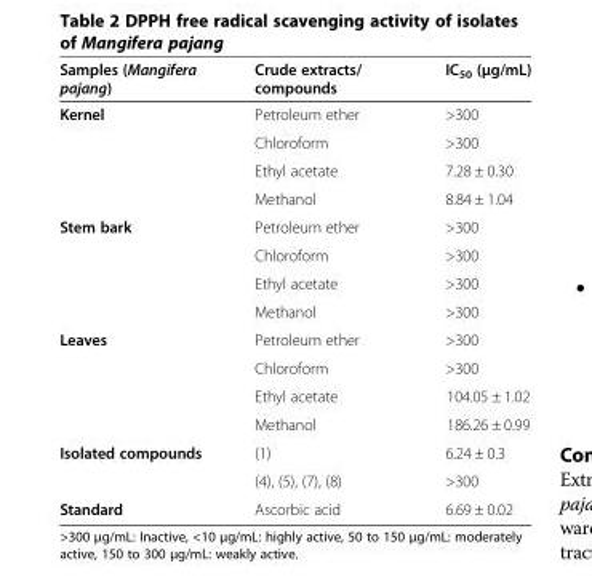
<table><thead><tr><td>Samples (Mangifera pajang)</td><td>Crude extracts/ compounds</td><td>IC<sub>50</sub> (μg/mL)</td></tr></thead><tbody><tr><td rowspan="4">Kernel</td><td>Petroleum ether</td><td>&gt;300</td></tr><tr><td>Chloroform</td><td>&gt;300</td></tr><tr><td>Ethyl acetate</td><td>7.28 ± 0.30</td></tr><tr><td>Methanol</td><td>8.84 ± 1.04</td></tr><tr><td rowspan="4">Stem bark</td><td>Petroleum ether</td><td>&gt;300</td></tr><tr><td>Chloroform</td><td>&gt;300</td></tr><tr><td>Ethyl acetate</td><td>&gt;300</td></tr><tr><td>Methanol</td><td>&gt;300</td></tr><tr><td rowspan="4">Leaves</td><td>Petroleum ether</td><td>&gt;300</td></tr><tr><td>Chloroform</td><td>&gt;300</td></tr><tr><td>Ethyl acetate</td><td>104.05 ± 1.02</td></tr><tr><td>Methanol</td><td>186.26 ± 0.99</td></tr><tr><td rowspan="2">Isolated compounds</td><td>(1)</td><td>6.24 ± 0.3</td></tr><tr><td>(4), (5), (7), (8)</td><td>&gt;300</td></tr><tr><td>Standard</td><td>Ascorbic acid</td><td>6.69 ± 0.02</td></tr></tbody></table>